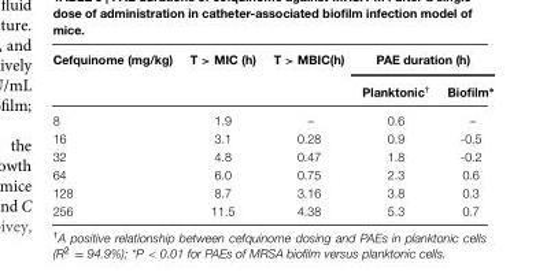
<table><thead><tr><td rowspan="2">Cefquinome (mg/kg)</td><td rowspan="2">T &gt; MIC (h)</td><td rowspan="2">T &gt; MBIC(h)</td><td colspan="2">PAE duration (h)</td></tr><tr><td>Planktonic†</td><td>Biofilm∗</td></tr></thead><tbody><tr><td>8</td><td>1.9</td><td>–</td><td>0.6</td><td>–</td></tr><tr><td>16</td><td>3.1</td><td>0.28</td><td>0.9</td><td>-0.5</td></tr><tr><td>32</td><td>4.8</td><td>0.47</td><td>1.8</td><td>-0.2</td></tr><tr><td>64</td><td>6.0</td><td>0.75</td><td>2.3</td><td>0.6</td></tr><tr><td>128</td><td>8.7</td><td>3.16</td><td>3.8</td><td>0.3</td></tr><tr><td>256</td><td>11.5</td><td>4.38</td><td>5.3</td><td>0.7</td></tr></tbody></table>